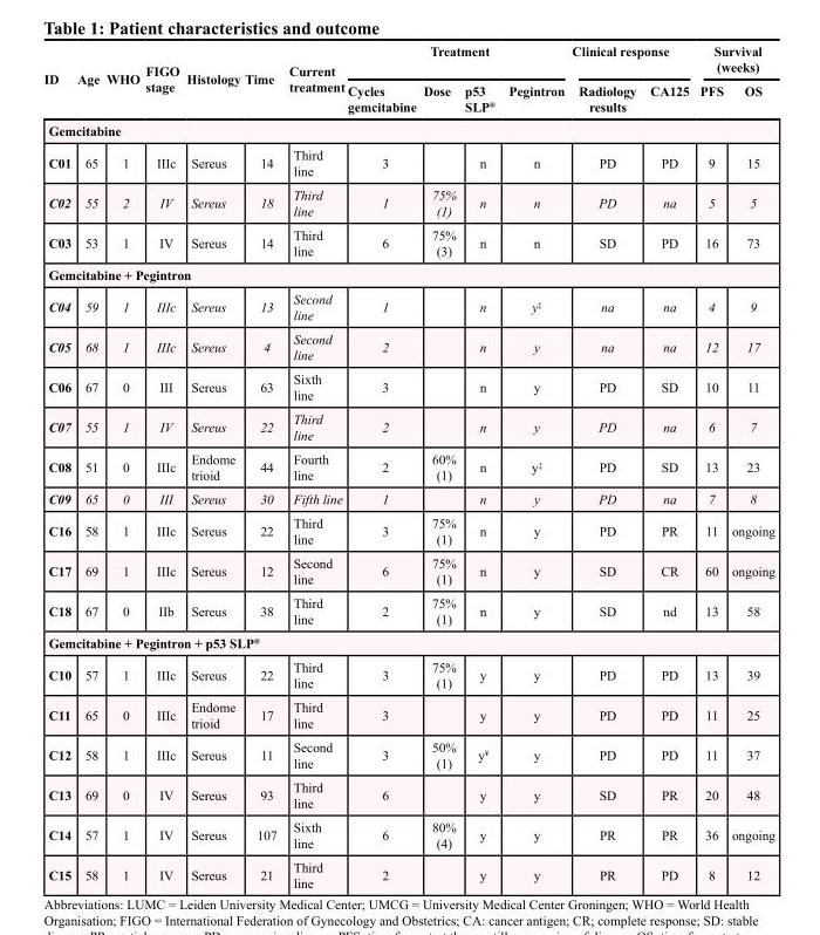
<table><thead><tr><td rowspan="2">ID</td><td rowspan="2">Age</td><td rowspan="2">WHO</td><td rowspan="2">FIGO stage</td><td rowspan="2">Histology</td><td rowspan="2">Time</td><td rowspan="2">Current treatment</td><td colspan="4">Treatment</td><td colspan="2">Clinical response</td><td colspan="2">Survival (weeks)</td></tr><tr><td>Cycles gemcitabine</td><td>Dose</td><td>p53 SLP<sup>®</sup></td><td>Pegintron</td><td>Radiology results</td><td>CA125</td><td>PFS</td><td>OS</td></tr></thead><tbody><tr><td colspan="15">Gemcitabine</td></tr><tr><td>C01</td><td>65</td><td>1</td><td>IIIc</td><td>Sereus</td><td>14</td><td>Third line</td><td>3</td><td></td><td>n</td><td>n</td><td>PD</td><td>PD</td><td>9</td><td>15</td></tr><tr><td>C02</td><td>55</td><td>2</td><td>IV</td><td>Sereus</td><td>18</td><td>Third line</td><td>1</td><td>75% (1)</td><td>n</td><td>n</td><td>PD</td><td>na</td><td>5</td><td>5</td></tr><tr><td>C03</td><td>53</td><td>1</td><td>IV</td><td>Sereus</td><td>14</td><td>Third line</td><td>6</td><td>75% (3)</td><td>n</td><td>n</td><td>SD</td><td>PD</td><td>16</td><td>73</td></tr><tr><td colspan="15">Gemcitabine + Pegintron</td></tr><tr><td>C04</td><td>59</td><td>1</td><td>IIIc</td><td>Sereus</td><td>13</td><td>Second line</td><td>1</td><td></td><td>n</td><td>y<sup>‡</sup></td><td>na</td><td>na</td><td>4</td><td>9</td></tr><tr><td>C05</td><td>68</td><td>1</td><td>IIIc</td><td>Sereus</td><td>4</td><td>Second line</td><td>2</td><td></td><td>n</td><td>y</td><td>na</td><td>na</td><td>12</td><td>17</td></tr><tr><td>C06</td><td>67</td><td>0</td><td>III</td><td>Sereus</td><td>63</td><td>Sixth line</td><td>3</td><td></td><td>n</td><td>y</td><td>PD</td><td>SD</td><td>10</td><td>11</td></tr><tr><td>C07</td><td>55</td><td>1</td><td>IV</td><td>Sereus</td><td>22</td><td>Third line</td><td>2</td><td></td><td>n</td><td>y</td><td>PD</td><td>na</td><td>6</td><td>7</td></tr><tr><td>C08</td><td>51</td><td>0</td><td>IIIc</td><td>Endome trioid</td><td>44</td><td>Fourth line</td><td>2</td><td>60% (1)</td><td>n</td><td>y<sup>‡</sup></td><td>PD</td><td>SD</td><td>13</td><td>23</td></tr><tr><td>C09</td><td>65</td><td>0</td><td>III</td><td>Sereus</td><td>30</td><td>Fifth line</td><td>1</td><td></td><td>n</td><td>y</td><td>PD</td><td>na</td><td>7</td><td>8</td></tr><tr><td>C16</td><td>58</td><td>1</td><td>IIIc</td><td>Sereus</td><td>22</td><td>Third line</td><td>3</td><td>75% (1)</td><td>n</td><td>y</td><td>PD</td><td>PR</td><td>11</td><td>ongoing</td></tr><tr><td>C17</td><td>69</td><td>1</td><td>IIIc</td><td>Sereus</td><td>12</td><td>Second line</td><td>6</td><td>75% (1)</td><td>n</td><td>y</td><td>SD</td><td>CR</td><td>60</td><td>ongoing</td></tr><tr><td>C18</td><td>67</td><td>0</td><td>IIb</td><td>Sereus</td><td>38</td><td>Third line</td><td>2</td><td>75% (1)</td><td>n</td><td>y</td><td>SD</td><td>nd</td><td>13</td><td>58</td></tr><tr><td colspan="15">Gemcitabine + Pegintron + p53 SLP<sup>®</sup></td></tr><tr><td>C10</td><td>57</td><td>1</td><td>IIIc</td><td>Sereus</td><td>22</td><td>Third line</td><td>3</td><td>75% (1)</td><td>y</td><td>y</td><td>PD</td><td>PD</td><td>13</td><td>39</td></tr><tr><td>C11</td><td>65</td><td>0</td><td>IIIc</td><td>Endome trioid</td><td>17</td><td>Third line</td><td>3</td><td></td><td>y</td><td>y</td><td>PD</td><td>PD</td><td>11</td><td>25</td></tr><tr><td>C12</td><td>58</td><td>1</td><td>IIIc</td><td>Sereus</td><td>11</td><td>Second line</td><td>3</td><td>50% (1)</td><td>y<sup>¥</sup></td><td>y</td><td>PD</td><td>PD</td><td>11</td><td>37</td></tr><tr><td>C13</td><td>69</td><td>0</td><td>IV</td><td>Sereus</td><td>93</td><td>Third line</td><td>6</td><td></td><td>y</td><td>y</td><td>SD</td><td>PR</td><td>20</td><td>48</td></tr><tr><td>C14</td><td>57</td><td>1</td><td>IV</td><td>Sereus</td><td>107</td><td>Sixth line</td><td>6</td><td>80% (4)</td><td>y</td><td>y</td><td>PR</td><td>PR</td><td>36</td><td>ongoing</td></tr><tr><td>C15</td><td>58</td><td>1</td><td>IV</td><td>Sereus</td><td>21</td><td>Third line</td><td>2</td><td></td><td>y</td><td>y</td><td>PR</td><td>PD</td><td>8</td><td>12</td></tr></tbody></table>